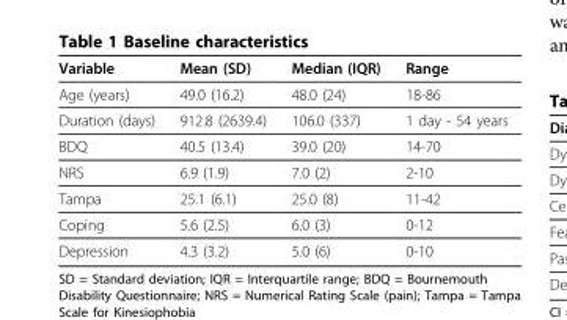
<table><thead><tr><td>Variable</td><td>Mean (SD)</td><td>Median (IQR)</td><td>Range</td></tr></thead><tbody><tr><td>Age (years)</td><td>49.0 (16.2)</td><td>48.0 (24)</td><td>18-86</td></tr><tr><td>Duration (days)</td><td>912.8 (2639.4)</td><td>106.0 (337)</td><td>1 day - 54 years</td></tr><tr><td>BDQ</td><td>40.5 (13.4)</td><td>39.0 (20)</td><td>14-70</td></tr><tr><td>NRS</td><td>6.9 (1.9)</td><td>7.0 (2)</td><td>2-10</td></tr><tr><td>Tampa</td><td>25.1 (6.1)</td><td>25.0 (8)</td><td>11-42</td></tr><tr><td>Coping</td><td>5.6 (2.5)</td><td>6.0 (3)</td><td>0-12</td></tr><tr><td>Depression</td><td>4.3 (3.2)</td><td>5.0 (6)</td><td>0-10</td></tr></tbody></table>